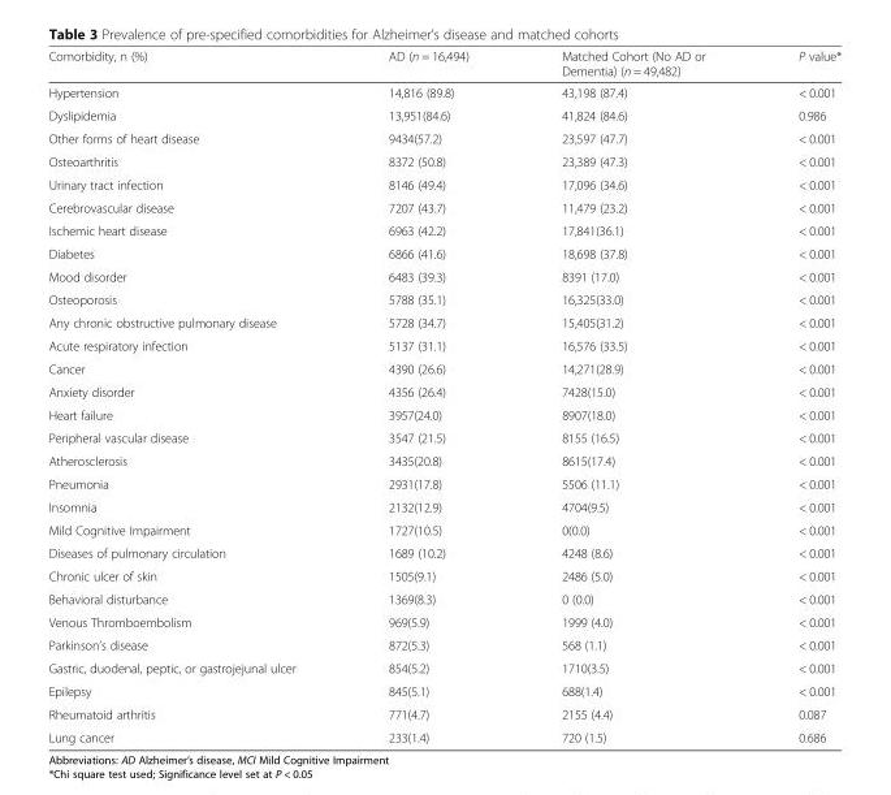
<table><thead><tr><td>Comorbidity, n (%)</td><td>AD (n = 16,494)</td><td>Matched Cohort (No AD or Dementia) (n = 49,482)</td><td>P value*</td></tr></thead><tbody><tr><td>Hypertension</td><td>14,816 (89.8)</td><td>43,198 (87.4)</td><td>&lt; 0.001</td></tr><tr><td>Dyslipidemia</td><td>13,951(84.6)</td><td>41,824 (84.6)</td><td>0.986</td></tr><tr><td>Other forms of heart disease</td><td>9434(57.2)</td><td>23,597 (47.7)</td><td>&lt; 0.001</td></tr><tr><td>Osteoarthritis</td><td>8372 (50.8)</td><td>23,389 (47.3)</td><td>&lt; 0.001</td></tr><tr><td>Urinary tract infection</td><td>8146 (49.4)</td><td>17,096 (34.6)</td><td>&lt; 0.001</td></tr><tr><td>Cerebrovascular disease</td><td>7207 (43.7)</td><td>11,479 (23.2)</td><td>&lt; 0.001</td></tr><tr><td>Ischemic heart disease</td><td>6963 (42.2)</td><td>17,841(36.1)</td><td>&lt; 0.001</td></tr><tr><td>Diabetes</td><td>6866 (41.6)</td><td>18,698 (37.8)</td><td>&lt; 0.001</td></tr><tr><td>Mood disorder</td><td>6483 (39.3)</td><td>8391 (17.0)</td><td>&lt; 0.001</td></tr><tr><td>Osteoporosis</td><td>5788 (35.1)</td><td>16,325(33.0)</td><td>&lt; 0.001</td></tr><tr><td>Any chronic obstructive pulmonary disease</td><td>5728 (34.7)</td><td>15,405(31.2)</td><td>&lt; 0.001</td></tr><tr><td>Acute respiratory infection</td><td>5137 (31.1)</td><td>16,576 (33.5)</td><td>&lt; 0.001</td></tr><tr><td>Cancer</td><td>4390 (26.6)</td><td>14,271(28.9)</td><td>&lt; 0.001</td></tr><tr><td>Anxiety disorder</td><td>4356 (26.4)</td><td>7428(15.0)</td><td>&lt; 0.001</td></tr><tr><td>Heart failure</td><td>3957(24.0)</td><td>8907(18.0)</td><td>&lt; 0.001</td></tr><tr><td>Peripheral vascular disease</td><td>3547 (21.5)</td><td>8155 (16.5)</td><td>&lt; 0.001</td></tr><tr><td>Atherosclerosis</td><td>3435(20.8)</td><td>8615(17.4)</td><td>&lt; 0.001</td></tr><tr><td>Pneumonia</td><td>2931(17.8)</td><td>5506 (11.1)</td><td>&lt; 0.001</td></tr><tr><td>Insomnia</td><td>2132(12.9)</td><td>4704(9.5)</td><td>&lt; 0.001</td></tr><tr><td>Mild Cognitive Impairment</td><td>1727(10.5)</td><td>0(0.0)</td><td>&lt; 0.001</td></tr><tr><td>Diseases of pulmonary circulation</td><td>1689 (10.2)</td><td>4248 (8.6)</td><td>&lt; 0.001</td></tr><tr><td>Chronic ulcer of skin</td><td>1505(9.1)</td><td>2486 (5.0)</td><td>&lt; 0.001</td></tr><tr><td>Behavioral disturbance</td><td>1369(8.3)</td><td>0 (0.0)</td><td>&lt; 0.001</td></tr><tr><td>Venous Thromboembolism</td><td>969(5.9)</td><td>1999 (4.0)</td><td>&lt; 0.001</td></tr><tr><td>Parkinson’s disease</td><td>872(5.3)</td><td>568 (1.1)</td><td>&lt; 0.001</td></tr><tr><td>Gastric, duodenal, peptic, or gastrojejunal ulcer</td><td>854(5.2)</td><td>1710(3.5)</td><td>&lt; 0.001</td></tr><tr><td>Epilepsy</td><td>845(5.1)</td><td>688(1.4)</td><td>&lt; 0.001</td></tr><tr><td>Rheumatoid arthritis</td><td>771(4.7)</td><td>2155 (4.4)</td><td>0.087</td></tr><tr><td>Lung cancer</td><td>233(1.4)</td><td>720 (1.5)</td><td>0.686</td></tr></tbody></table>